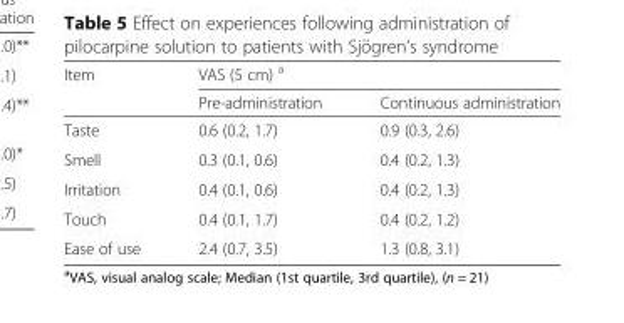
<table><thead><tr><td rowspan="2">Item</td><td colspan="2">VAS (5 cm) <sup>a</sup></td></tr><tr><td>Pre-administration</td><td>Continuous administration</td></tr></thead><tbody><tr><td>Taste</td><td>0.6 (0.2, 1.7)</td><td>0.9 (0.3, 2.6)</td></tr><tr><td>Smell</td><td>0.3 (0.1, 0.6)</td><td>0.4 (0.2, 1.3)</td></tr><tr><td>Irritation</td><td>0.4 (0.1, 0.6)</td><td>0.4 (0.2, 1.3)</td></tr><tr><td>Touch</td><td>0.4 (0.1, 1.7)</td><td>0.4 (0.2, 1.2)</td></tr><tr><td>Ease of use</td><td>2.4 (0.7, 3.5)</td><td>1.3 (0.8, 3.1)</td></tr></tbody></table>